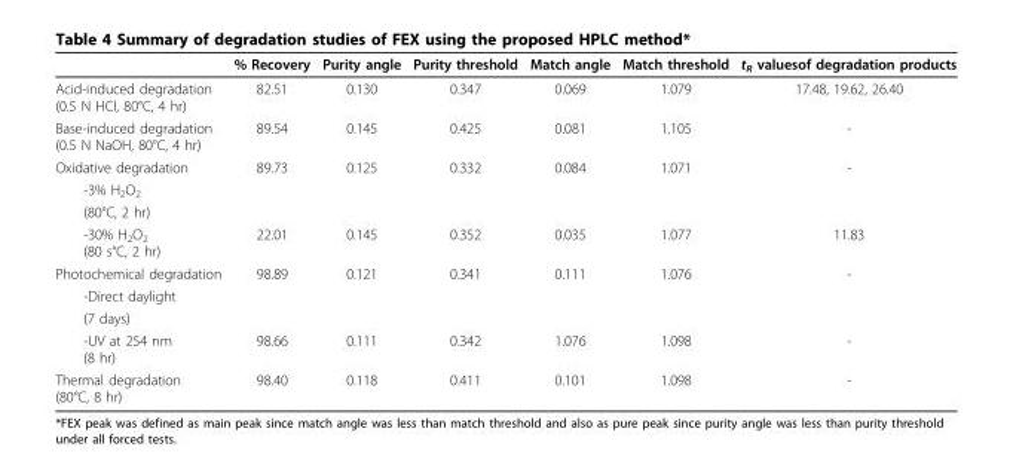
<table><thead><tr><td></td><td>% Recovery</td><td>Purity angle</td><td>Purity threshold</td><td>Match angle</td><td>Match threshold</td><td>t<sub>R</sub> valuesof degradation products</td></tr></thead><tbody><tr><td>Acid-induced degradation (0.5 N HCl, 80°C, 4 hr)</td><td>82.51</td><td>0.130</td><td>0.347</td><td>0.069</td><td>1.079</td><td>17.48, 19.62, 26.40</td></tr><tr><td>Base-induced degradation (0.5 N NaOH, 80°C, 4 hr)</td><td>89.54</td><td>0.145</td><td>0.425</td><td>0.081</td><td>1.105</td><td>-</td></tr><tr><td>Oxidative degradation</td><td>89.73</td><td>0.125</td><td>0.332</td><td>0.084</td><td>1.071</td><td>-</td></tr><tr><td colspan="7">-3% H<sub>2</sub>O<sub>2</sub></td></tr><tr><td colspan="7">(80°C, 2 hr)</td></tr><tr><td>-30% H<sub>2</sub>O<sub>2</sub> (80 s°C, 2 hr)</td><td>22.01</td><td>0.145</td><td>0.352</td><td>0.035</td><td>1.077</td><td>11.83</td></tr><tr><td>Photochemical degradation</td><td>98.89</td><td>0.121</td><td>0.341</td><td>0.111</td><td>1.076</td><td>-</td></tr><tr><td colspan="7">-Direct daylight</td></tr><tr><td colspan="7">(7 days)</td></tr><tr><td>-UV at 254 nm (8 hr)</td><td>98.66</td><td>0.111</td><td>0.342</td><td>1.076</td><td>1.098</td><td>-</td></tr><tr><td>Thermal degradation (80°C, 8 hr)</td><td>98.40</td><td>0.118</td><td>0.411</td><td>0.101</td><td>1.098</td><td>-</td></tr></tbody></table>